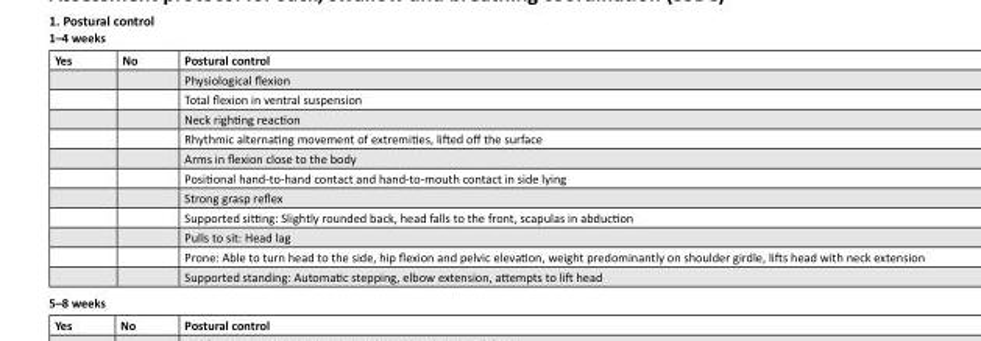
<table><thead><tr><td>Yes</td><td>No</td><td>Postural control</td></tr></thead><tbody><tr><td></td><td></td><td>Physiological flexion</td></tr><tr><td></td><td></td><td>Total flexion in ventral suspension</td></tr><tr><td></td><td></td><td>Neck righting reaction</td></tr><tr><td></td><td></td><td>Rhythmic alternating movement of extremities, lifted off the surface</td></tr><tr><td></td><td></td><td>Arms in flexion close to the body</td></tr><tr><td></td><td></td><td>Positional hand-to-hand contact and hand-to-mouth contact in side lying</td></tr><tr><td></td><td></td><td>Strong grasp reflex</td></tr><tr><td></td><td></td><td>Supported sitting: Slightly rounded back, head falls to the front, scapulas in abduction</td></tr><tr><td></td><td></td><td>Pulls to sit: Head lag</td></tr><tr><td></td><td></td><td>Prone: Able to turn head to the side, hip flexion and pelvic elevation, weight predominantly on shoulder girdle, lifts head with neck extension</td></tr><tr><td></td><td></td><td>Supported standing: Automatic stepping, elbow extension, attempts to lift head</td></tr></tbody></table>